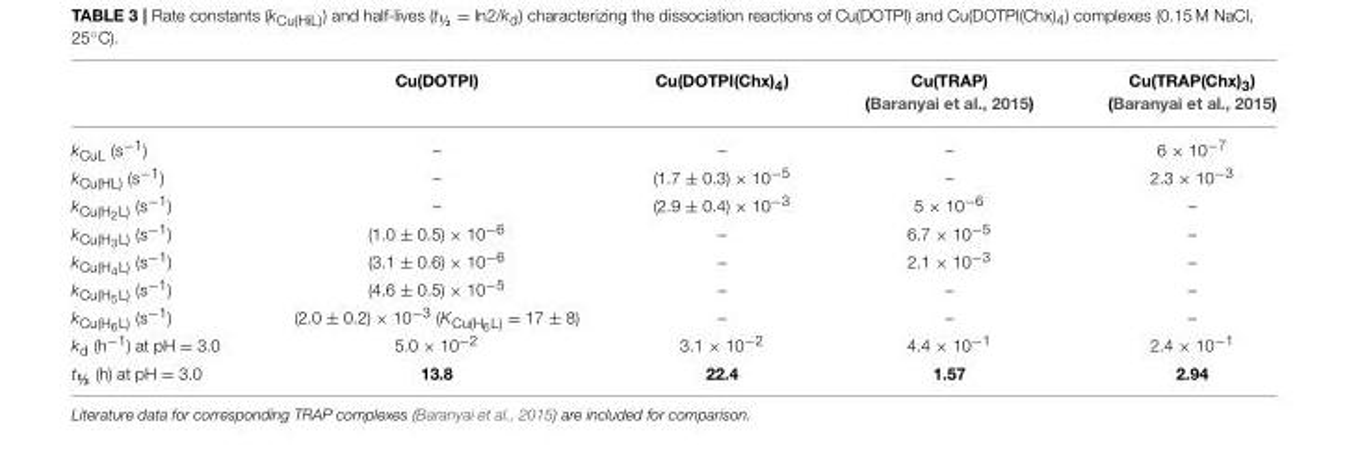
<table><thead><tr><td></td><td>Cu(DOTPI)</td><td>Cu(DOTPI(Chx)<sub>4</sub>)</td><td>Cu(TRAP) (Baranyai et al., 2015)</td><td>Cu(TRAP(Chx)<sub>3</sub>) (Baranyai et al., 2015)</td></tr></thead><tbody><tr><td>k<sub>CuL</sub> (s<sup>−1</sup>)</td><td>–</td><td>–</td><td>–</td><td>6 × 10<sup>−7</sup></td></tr><tr><td>k<sub>Cu(HL)</sub> (s<sup>−1</sup>)</td><td>–</td><td>(1.7 ± 0.3) × 10<sup>−5</sup></td><td>–</td><td>2.3 × 10<sup>−3</sup></td></tr><tr><td>kCu(H2L) (s−1)</td><td>–</td><td>(2.9 ± 0.4) × 10<sup>−3</sup></td><td>5 × 10<sup>−6</sup></td><td>–</td></tr><tr><td>kCu(H3L) (s−1)</td><td>(1.0 ± 0.5) × 10<sup>−6</sup></td><td>–</td><td>6.7 × 10<sup>−5</sup></td><td>–</td></tr><tr><td>kCu(H4L) (s−1)</td><td>(3.1 ± 0.6) × 10<sup>−6</sup></td><td>–</td><td>2.1 × 10<sup>−3</sup></td><td>–</td></tr><tr><td>kCu(H5L) (s−1)</td><td>(4.6 ± 0.5) × 10<sup>−5</sup></td><td>–</td><td>–</td><td>–</td></tr><tr><td>kCu(H6L) (s−1)</td><td>(2.0 ± 0.2) × 10−3 (KCu(H6L) = 17 ± 8)</td><td>–</td><td>–</td><td>–</td></tr><tr><td>k<sub>d</sub> (h<sup>−1</sup>) at pH = 3.0</td><td>5.0 × 10<sup>−2</sup></td><td>3.1 × 10<sup>−2</sup></td><td>4.4 × 10<sup>−1</sup></td><td>2.4 × 10<sup>−1</sup></td></tr><tr><td>t<sub>½</sub> (h) at pH = 3.0</td><td>13.8</td><td>22.4</td><td>1.57</td><td>2.94</td></tr></tbody></table>